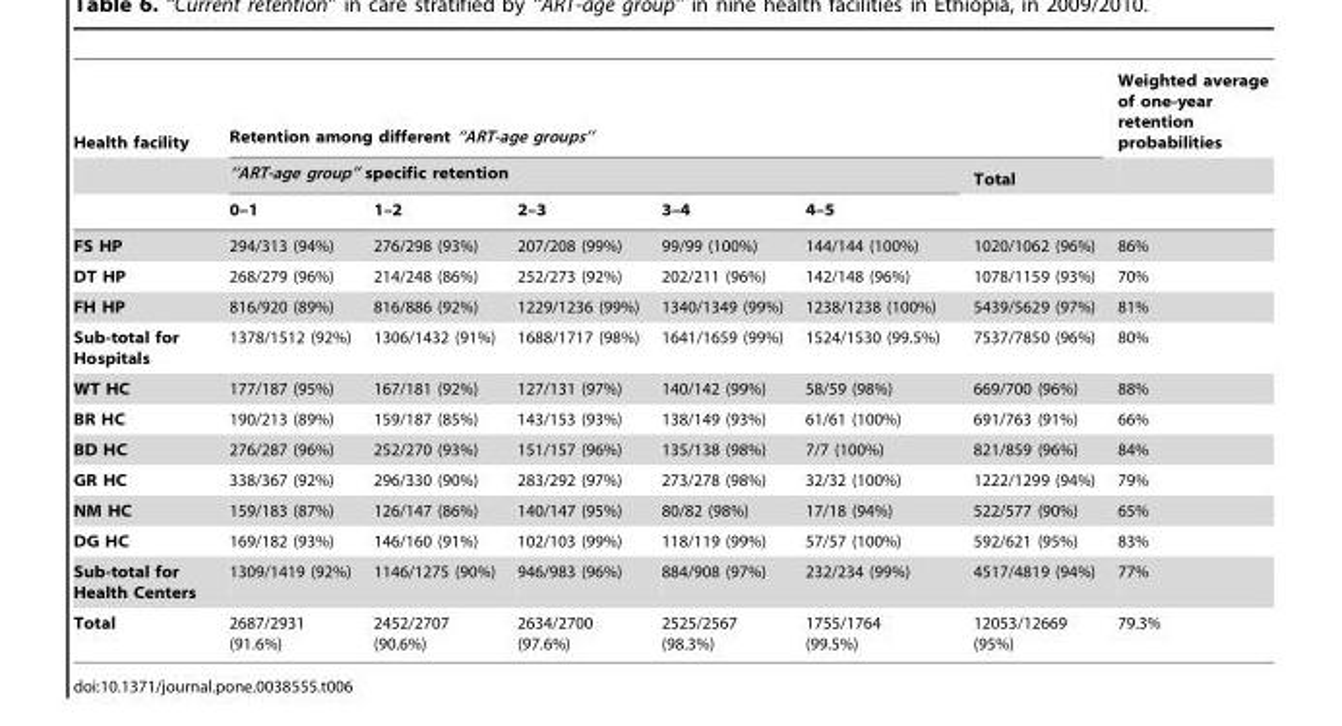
<table><thead><tr><td rowspan="3">Health facility</td><td colspan="6">Retention among different ‘‘ART-age groups’’</td><td rowspan="3">Weighted average of one-year retention probabilities</td></tr><tr><td colspan="5">‘‘ART-age group’’ specific retention</td><td rowspan="2">Total</td></tr><tr><td>0–1</td><td>1–2</td><td>2–3</td><td>3–4</td><td>4–5</td></tr></thead><tbody><tr><td>FS HP</td><td>294/313 (94%)</td><td>276/298 (93%)</td><td>207/208 (99%)</td><td>99/99 (100%)</td><td>144/144 (100%)</td><td>1020/1062 (96%)</td><td>86%</td></tr><tr><td>DT HP</td><td>268/279 (96%)</td><td>214/248 (86%)</td><td>252/273 (92%)</td><td>202/211 (96%)</td><td>142/148 (96%)</td><td>1078/1159 (93%)</td><td>70%</td></tr><tr><td>FH HP</td><td>816/920 (89%)</td><td>816/886 (92%)</td><td>1229/1236 (99%)</td><td>1340/1349 (99%)</td><td>1238/1238 (100%)</td><td>5439/5629 (97%)</td><td>81%</td></tr><tr><td>Sub-total for Hospitals</td><td>1378/1512 (92%)</td><td>1306/1432 (91%)</td><td>1688/1717 (98%)</td><td>1641/1659 (99%)</td><td>1524/1530 (99.5%)</td><td>7537/7850 (96%)</td><td>80%</td></tr><tr><td>WT HC</td><td>177/187 (95%)</td><td>167/181 (92%)</td><td>127/131 (97%)</td><td>140/142 (99%)</td><td>58/59 (98%)</td><td>669/700 (96%)</td><td>88%</td></tr><tr><td>BR HC</td><td>190/213 (89%)</td><td>159/187 (85%)</td><td>143/153 (93%)</td><td>138/149 (93%)</td><td>61/61 (100%)</td><td>691/763 (91%)</td><td>66%</td></tr><tr><td>BD HC</td><td>276/287 (96%)</td><td>252/270 (93%)</td><td>151/157 (96%)</td><td>135/138 (98%)</td><td>7/7 (100%)</td><td>821/859 (96%)</td><td>84%</td></tr><tr><td>GR HC</td><td>338/367 (92%)</td><td>296/330 (90%)</td><td>283/292 (97%)</td><td>273/278 (98%)</td><td>32/32 (100%)</td><td>1222/1299 (94%)</td><td>79%</td></tr><tr><td>NM HC</td><td>159/183 (87%)</td><td>126/147 (86%)</td><td>140/147 (95%)</td><td>80/82 (98%)</td><td>17/18 (94%)</td><td>522/577 (90%)</td><td>65%</td></tr><tr><td>DG HC</td><td>169/182 (93%)</td><td>146/160 (91%)</td><td>102/103 (99%)</td><td>118/119 (99%)</td><td>57/57 (100%)</td><td>592/621 (95%)</td><td>83%</td></tr><tr><td>Sub-total for Health Centers</td><td>1309/1419 (92%)</td><td>1146/1275 (90%)</td><td>946/983 (96%)</td><td>884/908 (97%)</td><td>232/234 (99%)</td><td>4517/4819 (94%)</td><td>77%</td></tr><tr><td>Total</td><td>2687/2931 (91.6%)</td><td>2452/2707 (90.6%)</td><td>2634/2700 (97.6%)</td><td>2525/2567 (98.3%)</td><td>1755/1764 (99.5%)</td><td>12053/12669 (95%)</td><td>79.3%</td></tr></tbody></table>